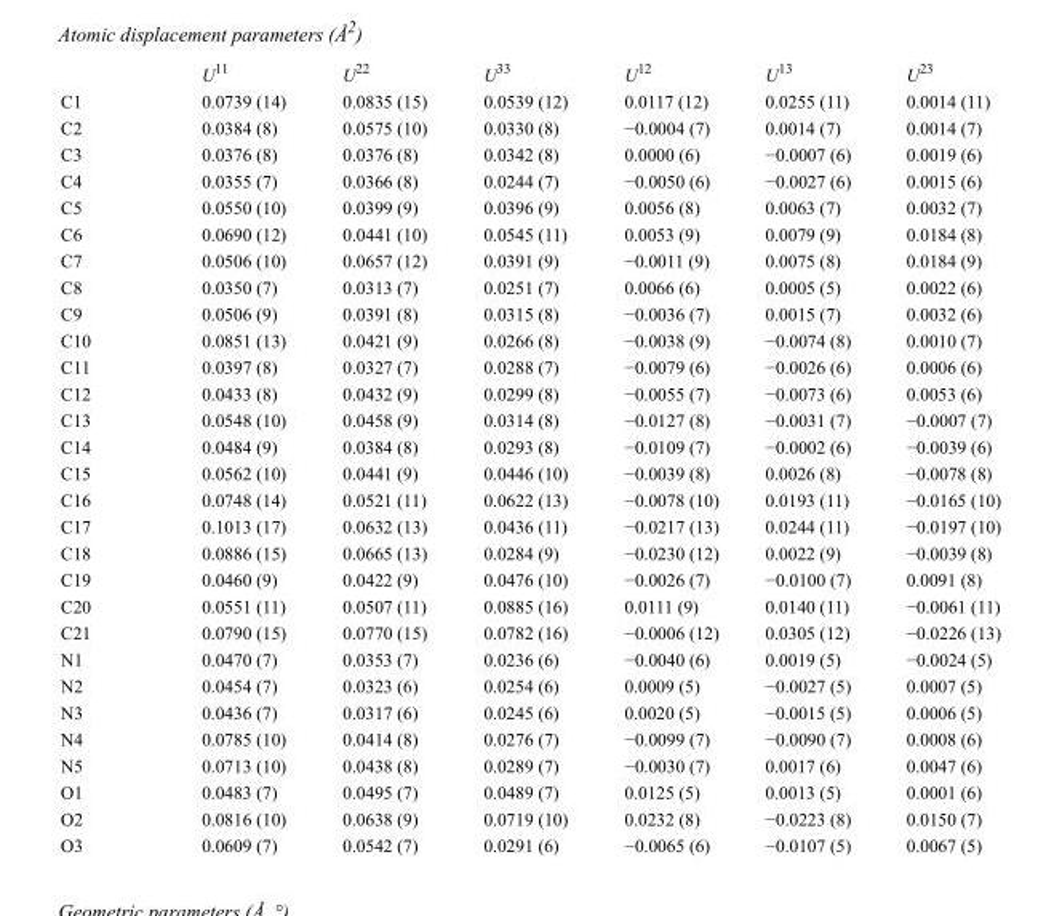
<table><thead><tr><td></td><td>U<sup>11</sup></td><td>U<sup>22</sup></td><td>U<sup>33</sup></td><td>U<sup>12</sup></td><td>U<sup>13</sup></td><td>U<sup>23</sup></td></tr></thead><tbody><tr><td>C1</td><td>0.0739 (14)</td><td>0.0835 (15)</td><td>0.0539 (12)</td><td>0.0117 (12)</td><td>0.0255 (11)</td><td>0.0014 (11)</td></tr><tr><td>C2</td><td>0.0384 (8)</td><td>0.0575 (10)</td><td>0.0330 (8)</td><td>−0.0004 (7)</td><td>0.0014 (7)</td><td>0.0014 (7)</td></tr><tr><td>C3</td><td>0.0376 (8)</td><td>0.0376 (8)</td><td>0.0342 (8)</td><td>0.0000 (6)</td><td>−0.0007 (6)</td><td>0.0019 (6)</td></tr><tr><td>C4</td><td>0.0355 (7)</td><td>0.0366 (8)</td><td>0.0244 (7)</td><td>−0.0050 (6)</td><td>−0.0027 (6)</td><td>0.0015 (6)</td></tr><tr><td>C5</td><td>0.0550 (10)</td><td>0.0399 (9)</td><td>0.0396 (9)</td><td>0.0056 (8)</td><td>0.0063 (7)</td><td>0.0032 (7)</td></tr><tr><td>C6</td><td>0.0690 (12)</td><td>0.0441 (10)</td><td>0.0545 (11)</td><td>0.0053 (9)</td><td>0.0079 (9)</td><td>0.0184 (8)</td></tr><tr><td>C7</td><td>0.0506 (10)</td><td>0.0657 (12)</td><td>0.0391 (9)</td><td>−0.0011 (9)</td><td>0.0075 (8)</td><td>0.0184 (9)</td></tr><tr><td>C8</td><td>0.0350 (7)</td><td>0.0313 (7)</td><td>0.0251 (7)</td><td>0.0066 (6)</td><td>0.0005 (5)</td><td>0.0022 (6)</td></tr><tr><td>C9</td><td>0.0506 (9)</td><td>0.0391 (8)</td><td>0.0315 (8)</td><td>−0.0036 (7)</td><td>0.0015 (7)</td><td>0.0032 (6)</td></tr><tr><td>C10</td><td>0.0851 (13)</td><td>0.0421 (9)</td><td>0.0266 (8)</td><td>−0.0038 (9)</td><td>−0.0074 (8)</td><td>0.0010 (7)</td></tr><tr><td>C11</td><td>0.0397 (8)</td><td>0.0327 (7)</td><td>0.0288 (7)</td><td>−0.0079 (6)</td><td>−0.0026 (6)</td><td>0.0006 (6)</td></tr><tr><td>C12</td><td>0.0433 (8)</td><td>0.0432 (9)</td><td>0.0299 (8)</td><td>−0.0055 (7)</td><td>−0.0073 (6)</td><td>0.0053 (6)</td></tr><tr><td>C13</td><td>0.0548 (10)</td><td>0.0458 (9)</td><td>0.0314 (8)</td><td>−0.0127 (8)</td><td>−0.0031 (7)</td><td>−0.0007 (7)</td></tr><tr><td>C14</td><td>0.0484 (9)</td><td>0.0384 (8)</td><td>0.0293 (8)</td><td>−0.0109 (7)</td><td>−0.0002 (6)</td><td>−0.0039 (6)</td></tr><tr><td>C15</td><td>0.0562 (10)</td><td>0.0441 (9)</td><td>0.0446 (10)</td><td>−0.0039 (8)</td><td>0.0026 (8)</td><td>−0.0078 (8)</td></tr><tr><td>C16</td><td>0.0748 (14)</td><td>0.0521 (11)</td><td>0.0622 (13)</td><td>−0.0078 (10)</td><td>0.0193 (11)</td><td>−0.0165 (10)</td></tr><tr><td>C17</td><td>0.1013 (17)</td><td>0.0632 (13)</td><td>0.0436 (11)</td><td>−0.0217 (13)</td><td>0.0244 (11)</td><td>−0.0197 (10)</td></tr><tr><td>C18</td><td>0.0886 (15)</td><td>0.0665 (13)</td><td>0.0284 (9)</td><td>−0.0230 (12)</td><td>0.0022 (9)</td><td>−0.0039 (8)</td></tr><tr><td>C19</td><td>0.0460 (9)</td><td>0.0422 (9)</td><td>0.0476 (10)</td><td>−0.0026 (7)</td><td>−0.0100 (7)</td><td>0.0091 (8)</td></tr><tr><td>C20</td><td>0.0551 (11)</td><td>0.0507 (11)</td><td>0.0885 (16)</td><td>0.0111 (9)</td><td>0.0140 (11)</td><td>−0.0061 (11)</td></tr><tr><td>C21</td><td>0.0790 (15)</td><td>0.0770 (15)</td><td>0.0782 (16)</td><td>−0.0006 (12)</td><td>0.0305 (12)</td><td>−0.0226 (13)</td></tr><tr><td>N1</td><td>0.0470 (7)</td><td>0.0353 (7)</td><td>0.0236 (6)</td><td>−0.0040 (6)</td><td>0.0019 (5)</td><td>−0.0024 (5)</td></tr><tr><td>N2</td><td>0.0454 (7)</td><td>0.0323 (6)</td><td>0.0254 (6)</td><td>0.0009 (5)</td><td>−0.0027 (5)</td><td>0.0007 (5)</td></tr><tr><td>N3</td><td>0.0436 (7)</td><td>0.0317 (6)</td><td>0.0245 (6)</td><td>0.0020 (5)</td><td>−0.0015 (5)</td><td>0.0006 (5)</td></tr><tr><td>N4</td><td>0.0785 (10)</td><td>0.0414 (8)</td><td>0.0276 (7)</td><td>−0.0099 (7)</td><td>−0.0090 (7)</td><td>0.0008 (6)</td></tr><tr><td>N5</td><td>0.0713 (10)</td><td>0.0438 (8)</td><td>0.0289 (7)</td><td>−0.0030 (7)</td><td>0.0017 (6)</td><td>0.0047 (6)</td></tr><tr><td>O1</td><td>0.0483 (7)</td><td>0.0495 (7)</td><td>0.0489 (7)</td><td>0.0125 (5)</td><td>0.0013 (5)</td><td>0.0001 (6)</td></tr><tr><td>O2</td><td>0.0816 (10)</td><td>0.0638 (9)</td><td>0.0719 (10)</td><td>0.0232 (8)</td><td>−0.0223 (8)</td><td>0.0150 (7)</td></tr><tr><td>O3</td><td>0.0609 (7)</td><td>0.0542 (7)</td><td>0.0291 (6)</td><td>−0.0065 (6)</td><td>−0.0107 (5)</td><td>0.0067 (5)</td></tr></tbody></table>